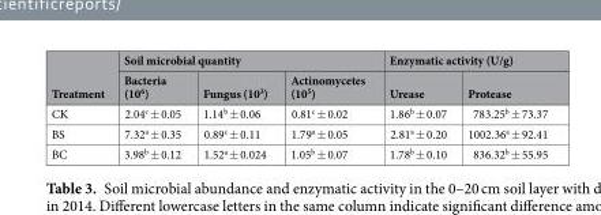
<table><thead><tr><td rowspan="2">Treatment</td><td colspan="3">Soil microbial quantity</td><td colspan="2">Enzymatic activity (U/g)</td></tr><tr><td>Bacteria (10<sup>6</sup>)</td><td>Fungus (10<sup>3</sup>)</td><td>Actinomycetes (10<sup>5</sup>)</td><td>Urease</td><td>Protease</td></tr></thead><tbody><tr><td>CK</td><td>2.04<sup>c</sup> ± 0.05</td><td>1.14<sup>b</sup> ± 0.06</td><td>0.81<sup>c</sup> ± 0.02</td><td>1.86<sup>b</sup> ± 0.07</td><td>783.25<sup>b</sup> ± 73.37</td></tr><tr><td>BS</td><td>7.32<sup>a</sup> ± 0.35</td><td>0.89<sup>c</sup> ± 0.11</td><td>1.79<sup>a</sup> ± 0.05</td><td>2.81<sup>a</sup> ± 0.20</td><td>1002.36<sup>a</sup> ± 92.41</td></tr><tr><td>BC</td><td>3.98<sup>b</sup> ± 0.12</td><td>1.52<sup>a</sup> ± 0.024</td><td>1.05<sup>b</sup> ± 0.07</td><td>1.78<sup>b</sup> ± 0.10</td><td>836.32<sup>b</sup> ± 55.95</td></tr></tbody></table>